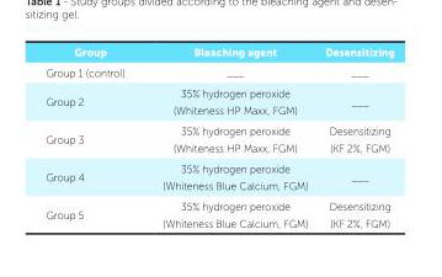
<table><thead><tr><td>Group</td><td>Bleaching agent</td><td>Desensitizing</td></tr></thead><tbody><tr><td>Group 1 (control)</td><td>___</td><td>___</td></tr><tr><td>Group 2</td><td>35% hydrogen peroxide (Whiteness HP Maxx, FGM)</td><td>___</td></tr><tr><td>Group 3</td><td>35% hydrogen peroxide (Whiteness HP Maxx, FGM)</td><td>Desensitizing (KF 2%, FGM)</td></tr><tr><td>Group 4</td><td>35% hydrogen peroxide (Whiteness Blue Calcium, FGM)</td><td>___</td></tr><tr><td>Group 5</td><td>35% hydrogen peroxide (Whiteness Blue Calcium, FGM)</td><td>Desensitizing (KF 2%, FGM)</td></tr></tbody></table>